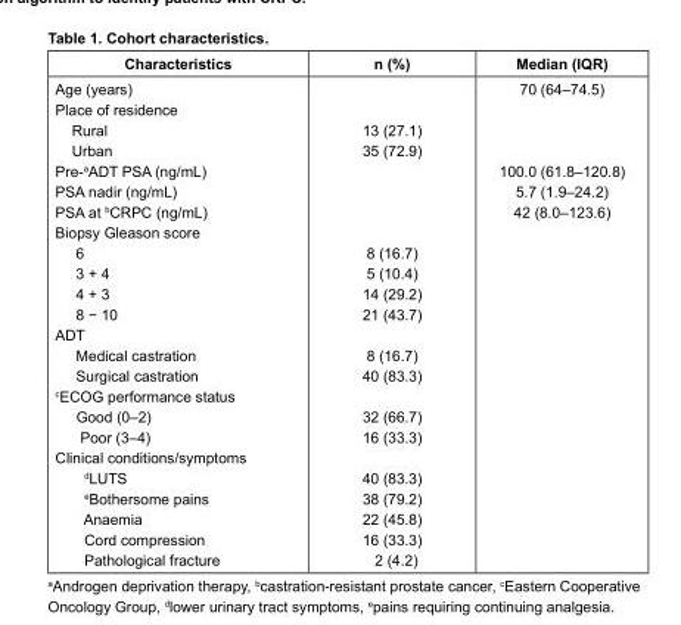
<table><thead><tr><td>Characteristics</td><td>n (%)</td><td>Median (IQR)</td></tr></thead><tbody><tr><td>Age (years) Place of residence Rural Urban Pre-<sup>a</sup>ADT PSA (ng/mL) PSA nadir (ng/mL) PSA at <sup>b</sup>CRPC (ng/mL) Biopsy Gleason score 6 3 + 4 4 + 3 8 − 10 ADT Medical castration Surgical castration <sup>c</sup>ECOG performance status Good (0–2) Poor (3–4) Clinical conditions/symptoms <sup>d</sup>LUTS <sup>e</sup>Bothersome pains Anaemia Cord compression Pathological fracture</td><td>13 (27.1) 35 (72.9) 8 (16.7) 5 (10.4) 14 (29.2) 21 (43.7) 8 (16.7) 40 (83.3) 32 (66.7) 16 (33.3) 40 (83.3) 38 (79.2) 22 (45.8) 16 (33.3) 2 (4.2)</td><td>70 (64–74.5) 100.0 (61.8–120.8) 5.7 (1.9–24.2) 42 (8.0–123.6)</td></tr></tbody></table>